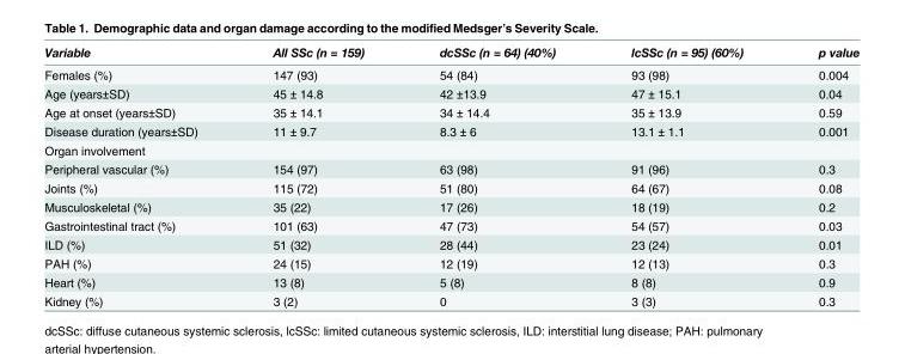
<table><thead><tr><td>Variable</td><td>All SSc (n = 159)</td><td>dcSSc (n = 64) (40%)</td><td>lcSSc (n = 95) (60%)</td><td>p value</td></tr></thead><tbody><tr><td>Females (%)</td><td>147 (93)</td><td>54 (84)</td><td>93 (98)</td><td>0.004</td></tr><tr><td>Age (years±SD)</td><td>45 ± 14.8</td><td>42 ±13.9</td><td>47 ± 15.1</td><td>0.04</td></tr><tr><td>Age at onset (years±SD)</td><td>35 ± 14.1</td><td>34 ± 14.4</td><td>35 ± 13.9</td><td>0.59</td></tr><tr><td>Disease duration (years±SD)</td><td>11 ± 9.7</td><td>8.3 ± 6</td><td>13.1 ± 1.1</td><td>0.001</td></tr><tr><td colspan="5">Organ involvement</td></tr><tr><td>Peripheral vascular (%)</td><td>154 (97)</td><td>63 (98)</td><td>91 (96)</td><td>0.3</td></tr><tr><td>Joints (%)</td><td>115 (72)</td><td>51 (80)</td><td>64 (67)</td><td>0.08</td></tr><tr><td>Musculoskeletal (%)</td><td>35 (22)</td><td>17 (26)</td><td>18 (19)</td><td>0.2</td></tr><tr><td>Gastrointestinal tract (%)</td><td>101 (63)</td><td>47 (73)</td><td>54 (57)</td><td>0.03</td></tr><tr><td>ILD (%)</td><td>51 (32)</td><td>28 (44)</td><td>23 (24)</td><td>0.01</td></tr><tr><td>PAH (%)</td><td>24 (15)</td><td>12 (19)</td><td>12 (13)</td><td>0.3</td></tr><tr><td>Heart (%)</td><td>13 (8)</td><td>5 (8)</td><td>8 (8)</td><td>0.9</td></tr><tr><td>Kidney (%)</td><td>3 (2)</td><td>0</td><td>3 (3)</td><td>0.3</td></tr></tbody></table>